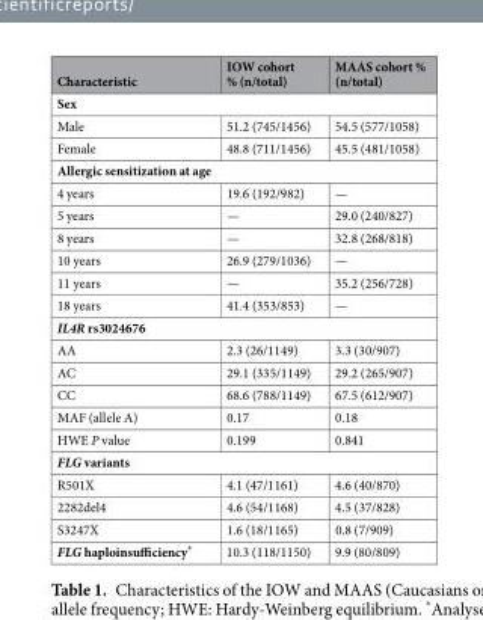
<table><thead><tr><td>Characteristic</td><td>IOW cohort % (n/total)</td><td>MAAS cohort % (n/total)</td></tr></thead><tbody><tr><td colspan="3">Sex</td></tr><tr><td>Male</td><td>51.2 (745/1456)</td><td>54.5 (577/1058)</td></tr><tr><td>Female</td><td>48.8 (711/1456)</td><td>45.5 (481/1058)</td></tr><tr><td colspan="3">Allergic sensitization at age</td></tr><tr><td>4 years</td><td>19.6 (192/982)</td><td>—</td></tr><tr><td>5 years</td><td>—</td><td>29.0 (240/827)</td></tr><tr><td>8 years</td><td>—</td><td>32.8 (268/818)</td></tr><tr><td>10 years</td><td>26.9 (279/1036)</td><td>—</td></tr><tr><td>11 years</td><td>—</td><td>35.2 (256/728)</td></tr><tr><td>18 years</td><td>41.4 (353/853)</td><td>—</td></tr><tr><td colspan="3">IL4R rs3024676</td></tr><tr><td>AA</td><td>2.3 (26/1149)</td><td>3.3 (30/907)</td></tr><tr><td>AC</td><td>29.1 (335/1149)</td><td>29.2 (265/907)</td></tr><tr><td>CC</td><td>68.6 (788/1149)</td><td>67.5 (612/907)</td></tr><tr><td>MAF (allele A)</td><td>0.17</td><td>0.18</td></tr><tr><td>HWE P value</td><td>0.199</td><td>0.841</td></tr><tr><td colspan="3">FLG variants</td></tr><tr><td>R501X</td><td>4.1 (47/1161)</td><td>4.6 (40/870)</td></tr><tr><td>2282del4</td><td>4.6 (54/1168)</td><td>4.5 (37/828)</td></tr><tr><td>S3247X</td><td>1.6 (18/1165)</td><td>0.8 (7/909)</td></tr><tr><td>FLG haploinsufficiency*</td><td>10.3 (118/1150)</td><td>9.9 (80/809)</td></tr></tbody></table>